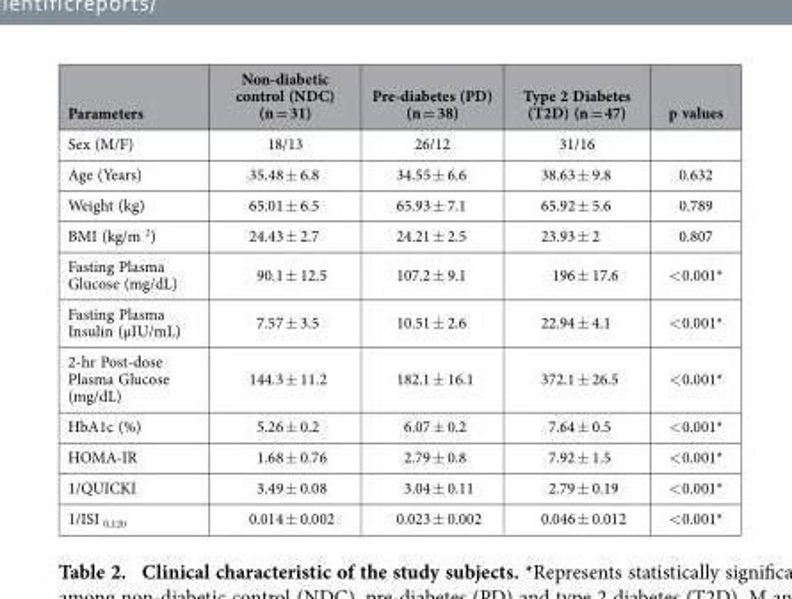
<table><thead><tr><td>Parameters</td><td>Non-diabetic control (NDC) (n = 31)</td><td>Pre-diabetes (PD) (n = 38)</td><td>Type 2 Diabetes (T2D) (n = 47)</td><td>p values</td></tr></thead><tbody><tr><td>Sex (M/F)</td><td>18/13</td><td>26/12</td><td>31/16</td><td></td></tr><tr><td>Age (Years)</td><td>35.48 ± 6.8</td><td>34.55 ± 6.6</td><td>38.63 ± 9.8</td><td>0.632</td></tr><tr><td>Weight (kg)</td><td>65.01 ± 6.5</td><td>65.93 ± 7.1</td><td>65.92 ± 5.6</td><td>0.789</td></tr><tr><td>BMI (kg/m <sup>2</sup>)</td><td>24.43 ± 2.7</td><td>24.21 ± 2.5</td><td>23.93 ± 2</td><td>0.807</td></tr><tr><td>Fasting Plasma Glucose (mg/dL)</td><td>90.1 ± 12.5</td><td>107.2 ± 9.1</td><td>196 ± 17.6</td><td>&lt; 0.001*</td></tr><tr><td>Fasting Plasma Insulin (μIU/mL)</td><td>7.57 ± 3.5</td><td>10.51 ± 2.6</td><td>22.94 ± 4.1</td><td>&lt; 0.001*</td></tr><tr><td>2-hr Post-dose Plasma Glucose (mg/dL)</td><td>144.3 ± 11.2</td><td>182.1 ± 16.1</td><td>372.1 ± 26.5</td><td>&lt; 0.001*</td></tr><tr><td>HbA1c (%)</td><td>5.26 ± 0.2</td><td>6.07 ± 0.2</td><td>7.64 ± 0.5</td><td>&lt; 0.001*</td></tr><tr><td>HOMA-IR</td><td>1.68 ± 0.76</td><td>2.79 ± 0.8</td><td>7.92 ± 1.5</td><td>&lt; 0.001*</td></tr><tr><td>1/QUICKI</td><td>3.49 ± 0.08</td><td>3.04 ± 0.11</td><td>2.79 ± 0.19</td><td>&lt; 0.001*</td></tr><tr><td>1/ISI <sub>0,120</sub></td><td>0.014 ± 0.002</td><td>0.023 ± 0.002</td><td>0.046 ± 0.012</td><td>&lt; 0.001*</td></tr></tbody></table>